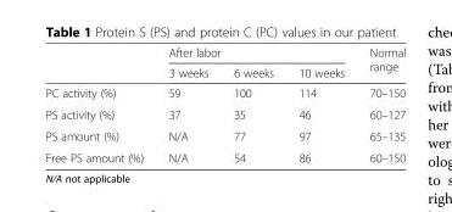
<table><thead><tr><td rowspan="2"></td><td colspan="3">After labor</td><td rowspan="2">Normal range</td></tr><tr><td>3 weeks</td><td>6 weeks</td><td>10 weeks</td></tr></thead><tbody><tr><td>PC activity (%)</td><td>59</td><td>100</td><td>114</td><td>70–150</td></tr><tr><td>PS activity (%)</td><td>37</td><td>35</td><td>46</td><td>60–127</td></tr><tr><td>PS amount (%)</td><td>N/A</td><td>77</td><td>97</td><td>65–135</td></tr><tr><td>Free PS amount (%)</td><td>N/A</td><td>54</td><td>86</td><td>60–150</td></tr></tbody></table>